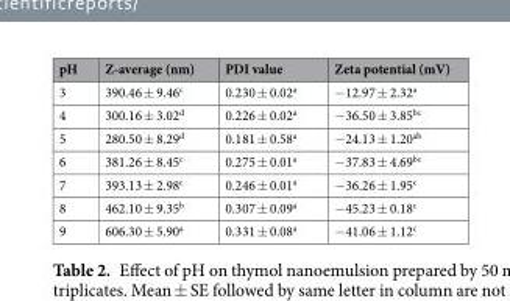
<table><thead><tr><td>pH</td><td>Z-average (nm)</td><td>PDI value</td><td>Zeta potential (mV)</td></tr></thead><tbody><tr><td>3</td><td>390.46 ± 9.46<sup>c</sup></td><td>0.230 ± 0.02<sup>a</sup></td><td>−12.97 ± 2.32<sup>a</sup></td></tr><tr><td>4</td><td>300.16 ± 3.02<sup>d</sup></td><td>0.226 ± 0.02<sup>a</sup></td><td>−36.50 ± 3.85<sup>bc</sup></td></tr><tr><td>5</td><td>280.50 ± 8.29<sup>d</sup></td><td>0.181 ± 0.58<sup>a</sup></td><td>−24.13 ± 1.20<sup>ab</sup></td></tr><tr><td>6</td><td>381.26 ± 8.45<sup>c</sup></td><td>0.275 ± 0.01<sup>a</sup></td><td>−37.83 ± 4.69<sup>bc</sup></td></tr><tr><td>7</td><td>393.13 ± 2.98<sup>c</sup></td><td>0.246 ± 0.01<sup>a</sup></td><td>−36.26 ± 1.95<sup>c</sup></td></tr><tr><td>8</td><td>462.10 ± 9.35<sup>b</sup></td><td>0.307 ± 0.09<sup>a</sup></td><td>−45.23 ± 0.18<sup>c</sup></td></tr><tr><td>9</td><td>606.30 ± 5.90<sup>a</sup></td><td>0.331 ± 0.08<sup>a</sup></td><td>−41.06 ± 1.12<sup>c</sup></td></tr></tbody></table>